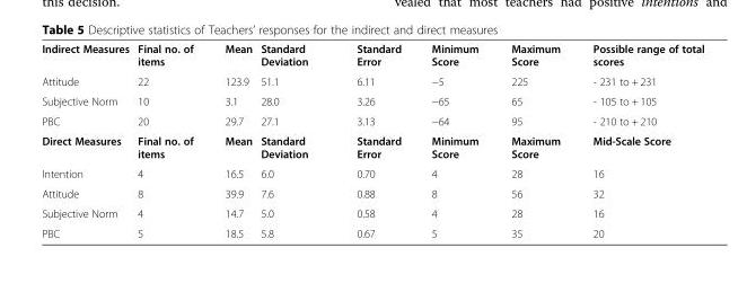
<table><tbody><tr><td>Indirect Measures</td><td>Final no. of items</td><td>Mean</td><td>Standard Deviation</td><td>Standard Error</td><td>Minimum Score</td><td>Maximum Score</td><td>Possible range of total scores</td></tr><tr><td>Attitude</td><td>22</td><td>123.9</td><td>51.1</td><td>6.11</td><td>−5</td><td>225</td><td>- 231 to + 231</td></tr><tr><td>Subjective Norm</td><td>10</td><td>3.1</td><td>28.0</td><td>3.26</td><td>−65</td><td>65</td><td>- 105 to + 105</td></tr><tr><td>PBC</td><td>20</td><td>29.7</td><td>27.1</td><td>3.13</td><td>−64</td><td>95</td><td>- 210 to + 210</td></tr><tr><td>Direct Measures</td><td>Final no. of items</td><td>Mean</td><td>Standard Deviation</td><td>Standard Error</td><td>Minimum Score</td><td>Maximum Score</td><td>Mid-Scale Score</td></tr><tr><td>Intention</td><td>4</td><td>16.5</td><td>6.0</td><td>0.70</td><td>4</td><td>28</td><td>16</td></tr><tr><td>Attitude</td><td>8</td><td>39.9</td><td>7.6</td><td>0.88</td><td>8</td><td>56</td><td>32</td></tr><tr><td>Subjective Norm</td><td>4</td><td>14.7</td><td>5.0</td><td>0.58</td><td>4</td><td>28</td><td>16</td></tr><tr><td>PBC</td><td>5</td><td>18.5</td><td>5.8</td><td>0.67</td><td>5</td><td>35</td><td>20</td></tr></tbody></table>